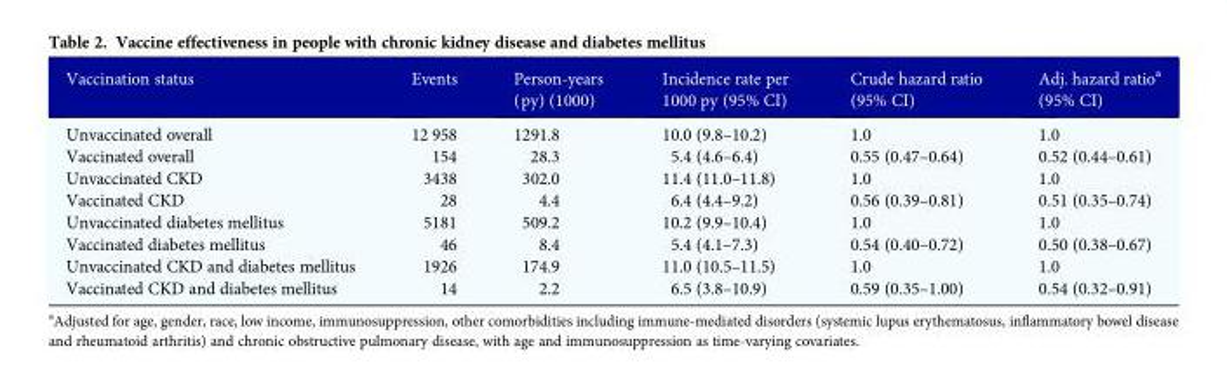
<table><thead><tr><td>Vaccination status</td><td>Events</td><td>Person-years (py) (1000)</td><td>Incidence rate per 1000 py (95% CI)</td><td>Crude hazard ratio (95% CI)</td><td>Adj. hazard ratio<sup>a</sup> (95% CI)</td></tr></thead><tbody><tr><td>Unvaccinated overall</td><td>12 958</td><td>1291.8</td><td>10.0 (9.8–10.2)</td><td>1.0</td><td>1.0</td></tr><tr><td>Vaccinated overall</td><td>154</td><td>28.3</td><td>5.4 (4.6–6.4)</td><td>0.55 (0.47–0.64)</td><td>0.52 (0.44–0.61)</td></tr><tr><td>Unvaccinated CKD</td><td>3438</td><td>302.0</td><td>11.4 (11.0–11.8)</td><td>1.0</td><td>1.0</td></tr><tr><td>Vaccinated CKD</td><td>28</td><td>4.4</td><td>6.4 (4.4–9.2)</td><td>0.56 (0.39–0.81)</td><td>0.51 (0.35–0.74)</td></tr><tr><td>Unvaccinated diabetes mellitus</td><td>5181</td><td>509.2</td><td>10.2 (9.9–10.4)</td><td>1.0</td><td>1.0</td></tr><tr><td>Vaccinated diabetes mellitus</td><td>46</td><td>8.4</td><td>5.4 (4.1–7.3)</td><td>0.54 (0.40–0.72)</td><td>0.50 (0.38–0.67)</td></tr><tr><td>Unvaccinated CKD and diabetes mellitus</td><td>1926</td><td>174.9</td><td>11.0 (10.5–11.5)</td><td>1.0</td><td>1.0</td></tr><tr><td>Vaccinated CKD and diabetes mellitus</td><td>14</td><td>2.2</td><td>6.5 (3.8–10.9)</td><td>0.59 (0.35–1.00)</td><td>0.54 (0.32–0.91)</td></tr></tbody></table>